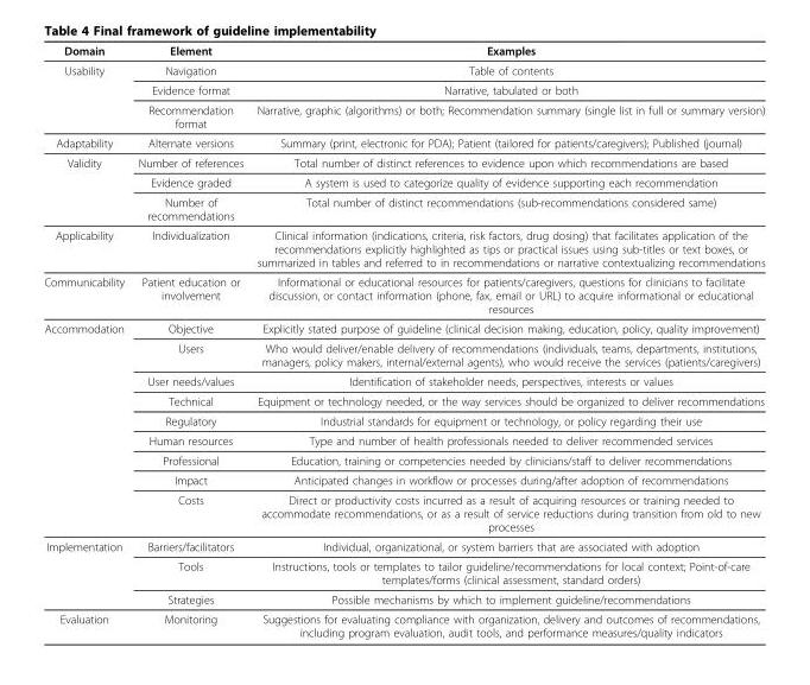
<table><thead><tr><td>Domain</td><td>Element</td><td>Examples</td></tr></thead><tbody><tr><td rowspan="3">Usability</td><td>Navigation</td><td>Table of contents</td></tr><tr><td>Evidence format</td><td>Narrative, tabulated or both</td></tr><tr><td>Recommendation format</td><td>Narrative, graphic (algorithms) or both; Recommendation summary (single list in full or summary version)</td></tr><tr><td>Adaptability</td><td>Alternate versions</td><td>Summary (print, electronic for PDA); Patient (tailored for patients/caregivers); Published (journal)</td></tr><tr><td rowspan="3">Validity</td><td>Number of references</td><td>Total number of distinct references to evidence upon which recommendations are based</td></tr><tr><td>Evidence graded</td><td>A system is used to categorize quality of evidence supporting each recommendation</td></tr><tr><td>Number of recommendations</td><td>Total number of distinct recommendations (sub-recommendations considered same)</td></tr><tr><td>Applicability</td><td>Individualization</td><td>Clinical information (indications, criteria, risk factors, drug dosing) that facilitates application of the recommendations explicitly highlighted as tips or practical issues using sub-titles or text boxes, or summarized in tables and referred to in recommendations or narrative contextualizing recommendations</td></tr><tr><td>Communicability</td><td>Patient education or involvement</td><td>Informational or educational resources for patients/caregivers, questions for clinicians to facilitate discussion, or contact information (phone, fax, email or URL) to acquire informational or educational resources</td></tr><tr><td rowspan="9">Accommodation</td><td>Objective</td><td>Explicitly stated purpose of guideline (clinical decision making, education, policy, quality improvement)</td></tr><tr><td>Users</td><td>Who would deliver/enable delivery of recommendations (individuals, teams, departments, institutions, managers, policy makers, internal/external agents), who would receive the services (patients/caregivers)</td></tr><tr><td>User needs/values</td><td>Identification of stakeholder needs, perspectives, interests or values</td></tr><tr><td>Technical</td><td>Equipment or technology needed, or the way services should be organized to deliver recommendations</td></tr><tr><td>Regulatory</td><td>Industrial standards for equipment or technology, or policy regarding their use</td></tr><tr><td>Human resources</td><td>Type and number of health professionals needed to deliver recommended services</td></tr><tr><td>Professional</td><td>Education, training or competencies needed by clinicians/staff to deliver recommendations</td></tr><tr><td>Impact</td><td>Anticipated changes in workflow or processes during/after adoption of recommendations</td></tr><tr><td>Costs</td><td>Direct or productivity costs incurred as a result of acquiring resources or training needed to accommodate recommendations, or as a result of service reductions during transition from old to new processes</td></tr><tr><td rowspan="3">Implementation</td><td>Barriers/facilitators</td><td>Individual, organizational, or system barriers that are associated with adoption</td></tr><tr><td>Tools</td><td>Instructions, tools or templates to tailor guideline/recommendations for local context; Point-of-care templates/forms (clinical assessment, standard orders)</td></tr><tr><td>Strategies</td><td>Possible mechanisms by which to implement guideline/recommendations</td></tr><tr><td>Evaluation</td><td>Monitoring</td><td>Suggestions for evaluating compliance with organization, delivery and outcomes of recommendations, including program evaluation, audit tools, and performance measures/quality indicators</td></tr></tbody></table>